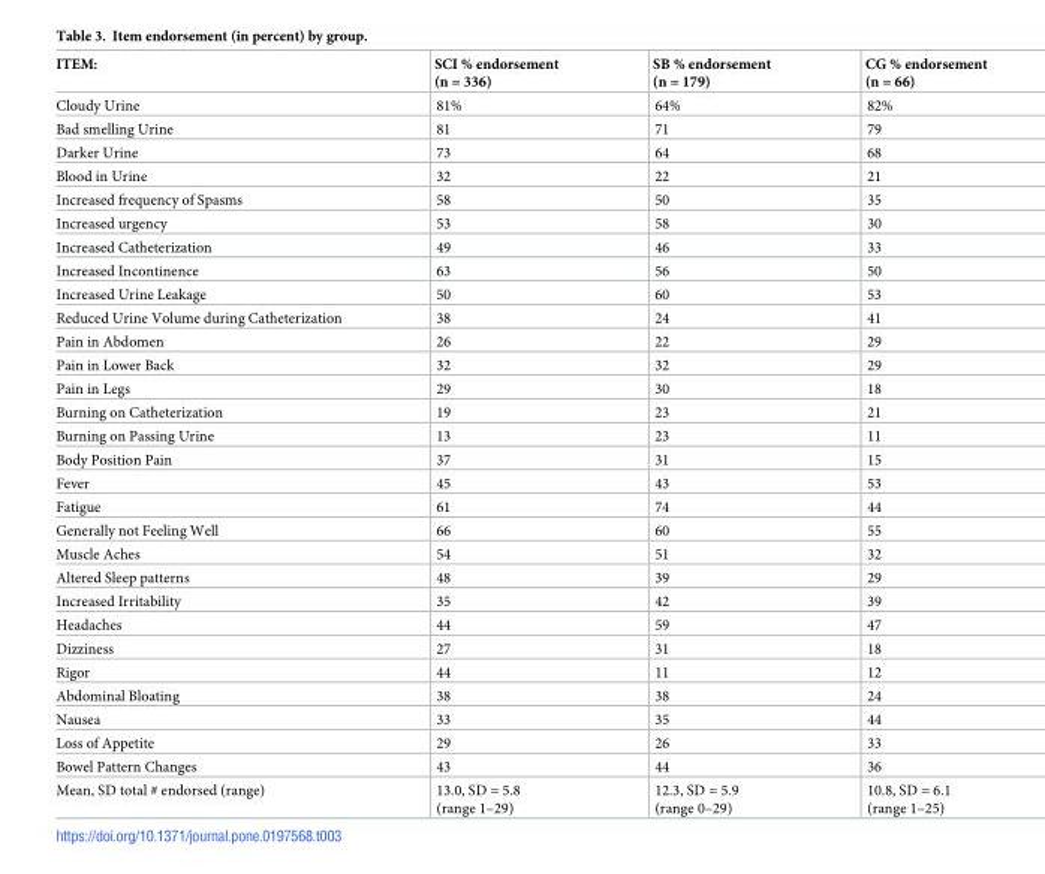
<table><thead><tr><td>ITEM:</td><td>SCI % endorsement (n = 336)</td><td>SB % endorsement (n = 179)</td><td>CG % endorsement (n = 66)</td></tr></thead><tbody><tr><td>Cloudy Urine</td><td>81%</td><td>64%</td><td>82%</td></tr><tr><td>Bad smelling Urine</td><td>81</td><td>71</td><td>79</td></tr><tr><td>Darker Urine</td><td>73</td><td>64</td><td>68</td></tr><tr><td>Blood in Urine</td><td>32</td><td>22</td><td>21</td></tr><tr><td>Increased frequency of Spasms</td><td>58</td><td>50</td><td>35</td></tr><tr><td>Increased urgency</td><td>53</td><td>58</td><td>30</td></tr><tr><td>Increased Catheterization</td><td>49</td><td>46</td><td>33</td></tr><tr><td>Increased Incontinence</td><td>63</td><td>56</td><td>50</td></tr><tr><td>Increased Urine Leakage</td><td>50</td><td>60</td><td>53</td></tr><tr><td>Reduced Urine Volume during Catheterization</td><td>38</td><td>24</td><td>41</td></tr><tr><td>Pain in Abdomen</td><td>26</td><td>22</td><td>29</td></tr><tr><td>Pain in Lower Back</td><td>32</td><td>32</td><td>29</td></tr><tr><td>Pain in Legs</td><td>29</td><td>30</td><td>18</td></tr><tr><td>Burning on Catheterization</td><td>19</td><td>23</td><td>21</td></tr><tr><td>Burning on Passing Urine</td><td>13</td><td>23</td><td>11</td></tr><tr><td>Body Position Pain</td><td>37</td><td>31</td><td>15</td></tr><tr><td>Fever</td><td>45</td><td>43</td><td>53</td></tr><tr><td>Fatigue</td><td>61</td><td>74</td><td>44</td></tr><tr><td>Generally not Feeling Well</td><td>66</td><td>60</td><td>55</td></tr><tr><td>Muscle Aches</td><td>54</td><td>51</td><td>32</td></tr><tr><td>Altered Sleep patterns</td><td>48</td><td>39</td><td>29</td></tr><tr><td>Increased Irritability</td><td>35</td><td>42</td><td>39</td></tr><tr><td>Headaches</td><td>44</td><td>59</td><td>47</td></tr><tr><td>Dizziness</td><td>27</td><td>31</td><td>18</td></tr><tr><td>Rigor</td><td>44</td><td>11</td><td>12</td></tr><tr><td>Abdominal Bloating</td><td>38</td><td>38</td><td>24</td></tr><tr><td>Nausea</td><td>33</td><td>35</td><td>44</td></tr><tr><td>Loss of Appetite</td><td>29</td><td>26</td><td>33</td></tr><tr><td>Bowel Pattern Changes</td><td>43</td><td>44</td><td>36</td></tr><tr><td>Mean, SD total # endorsed (range)</td><td>13.0, SD = 5.8 (range 1–29)</td><td>12.3, SD = 5.9 (range 0–29)</td><td>10.8, SD = 6.1 (range 1–25)</td></tr></tbody></table>